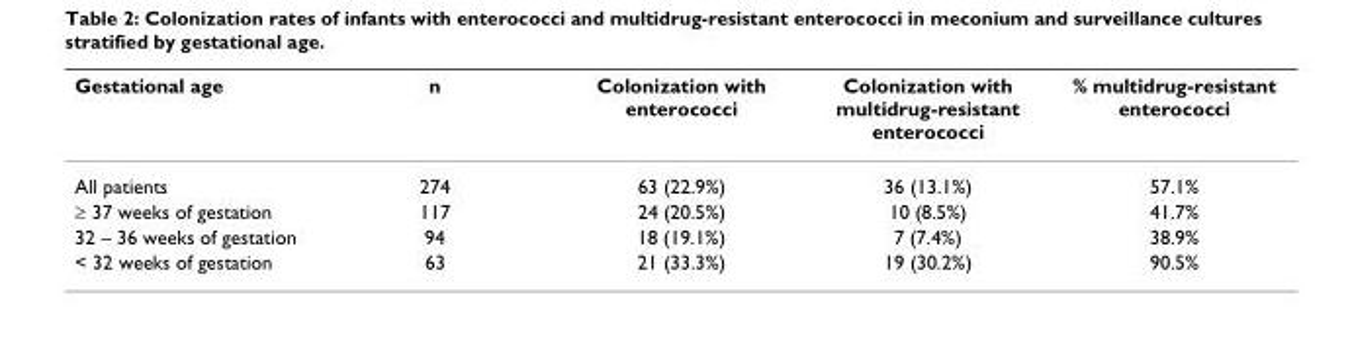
<table><thead><tr><td>Gestational age</td><td>n</td><td>Colonization with enterococci</td><td>Colonization with multidrug-resistant enterococci</td><td>% multidrug-resistant enterococci</td></tr></thead><tbody><tr><td>All patients</td><td>274</td><td>63 (22.9%)</td><td>36 (13.1%)</td><td>57.1%</td></tr><tr><td>≥ 37 weeks of gestation</td><td>117</td><td>24 (20.5%)</td><td>10 (8.5%)</td><td>41.7%</td></tr><tr><td>32 – 36 weeks of gestation</td><td>94</td><td>18 (19.1%)</td><td>7 (7.4%)</td><td>38.9%</td></tr><tr><td>&lt; 32 weeks of gestation</td><td>63</td><td>21 (33.3%)</td><td>19 (30.2%)</td><td>90.5%</td></tr></tbody></table>